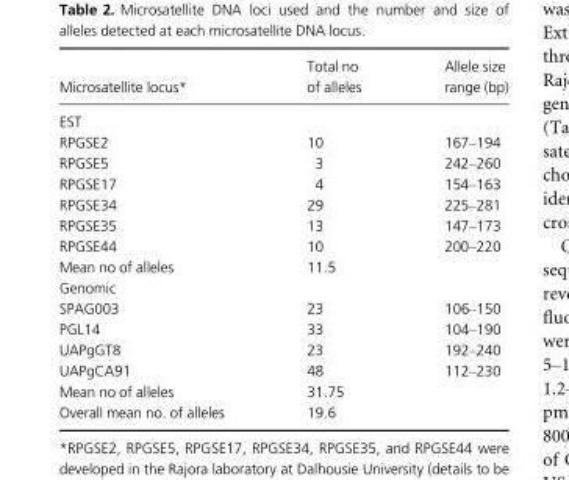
<table><thead><tr><td>Microsatellite locus*</td><td>Total no of alleles</td><td>Allele size range (bp)</td></tr></thead><tbody><tr><td colspan="3">EST</td></tr><tr><td>RPGSE2</td><td>10</td><td>167–194</td></tr><tr><td>RPGSE5</td><td>3</td><td>242–260</td></tr><tr><td>RPGSE17</td><td>4</td><td>154–163</td></tr><tr><td>RPGSE34</td><td>29</td><td>225–281</td></tr><tr><td>RPGSE35</td><td>13</td><td>147–173</td></tr><tr><td>RPGSE44</td><td>10</td><td>200–220</td></tr><tr><td>Mean no of alleles</td><td>11.5</td><td></td></tr><tr><td colspan="3">Genomic</td></tr><tr><td>SPAG003</td><td>23</td><td>106–150</td></tr><tr><td>PGL14</td><td>33</td><td>104–190</td></tr><tr><td>UAPgGT8</td><td>23</td><td>192–240</td></tr><tr><td>UAPgCA91</td><td>48</td><td>112–230</td></tr><tr><td>Mean no of alleles</td><td>31.75</td><td></td></tr><tr><td>Overall mean no. of alleles</td><td>19.6</td><td></td></tr></tbody></table>